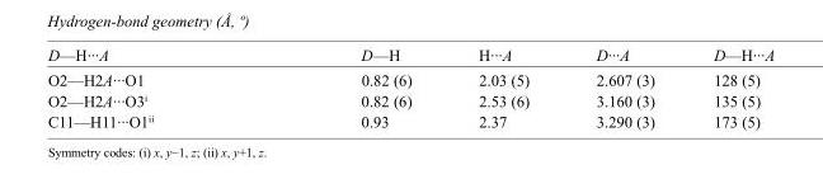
<table><tbody><tr><td>D—H···A</td><td>D—H</td><td>H···A</td><td>D···A</td><td>D—H···A</td></tr><tr><td>O2—H2A···O1</td><td>0.82 (6)</td><td>2.03 (5)</td><td>2.607 (3)</td><td>128 (5)</td></tr><tr><td>O2—H2A···O3<sup>i</sup></td><td>0.82 (6)</td><td>2.53 (6)</td><td>3.160 (3)</td><td>135 (5)</td></tr><tr><td>C11—H11···O1<sup>ii</sup></td><td>0.93</td><td>2.37</td><td>3.290 (3)</td><td>173 (5)</td></tr></tbody></table>